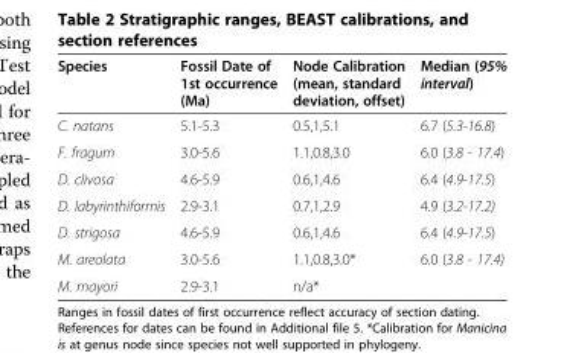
<table><thead><tr><td>Species</td><td>Fossil Date of 1st occurrence (Ma)</td><td>Node Calibration (mean, standard deviation, offset)</td><td>Median (95% interval)</td></tr></thead><tbody><tr><td>C. natans</td><td>5.1-5.3</td><td>0.5,1,5.1</td><td>6.7 (5.3-16.8)</td></tr><tr><td>F. fragum</td><td>3.0-5.6</td><td>1.1,0.8,3.0</td><td>6.0 (3.8 - 17.4)</td></tr><tr><td>D. clivosa</td><td>4.6-5.9</td><td>0.6,1,4.6</td><td>6.4 (4.9-17.5)</td></tr><tr><td>D. labyrinthiformis</td><td>2.9-3.1</td><td>0.7,1,2.9</td><td>4.9 (3.2-17.2)</td></tr><tr><td>D. strigosa</td><td>4.6-5.9</td><td>0.6,1,4.6</td><td>6.4 (4.9-17.5)</td></tr><tr><td>M. areolata</td><td>3.0-5.6</td><td>1.1,0.8,3.0*</td><td>6.0 (3.8 - 17.4)</td></tr><tr><td>M. mayori</td><td>2.9-3.1</td><td>n/a*</td><td></td></tr></tbody></table>